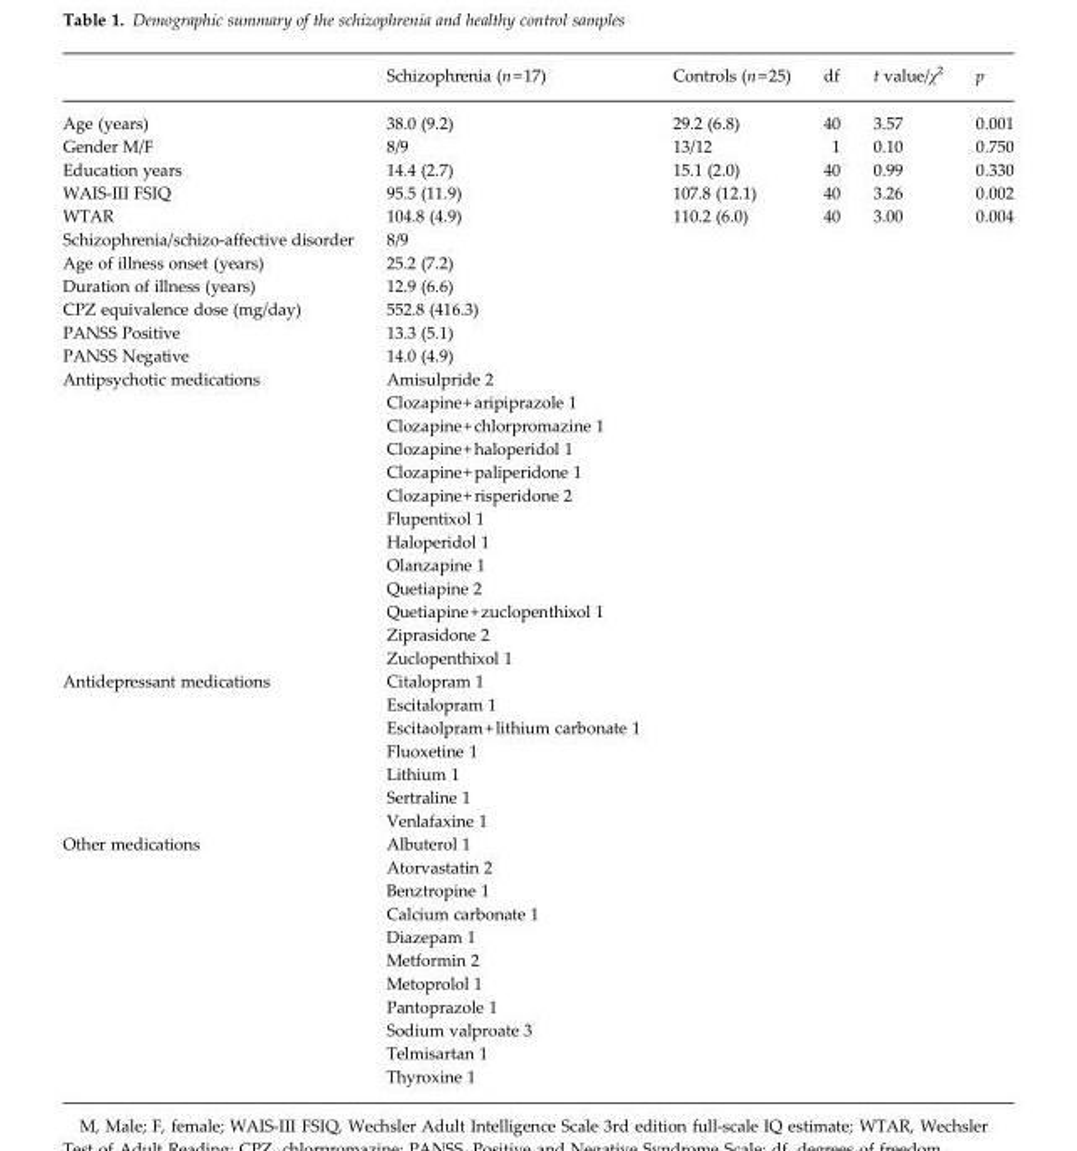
<table><thead><tr><td></td><td>Schizophrenia (n=17)</td><td>Controls (n=25)</td><td>df</td><td>t value/χ<sup>2</sup></td><td>p</td></tr></thead><tbody><tr><td>Age (years)</td><td>38.0 (9.2)</td><td>29.2 (6.8)</td><td>40</td><td>3.57</td><td>0.001</td></tr><tr><td>Gender M/F</td><td>8/9</td><td>13/12</td><td>1</td><td>0.10</td><td>0.750</td></tr><tr><td>Education years</td><td>14.4 (2.7)</td><td>15.1 (2.0)</td><td>40</td><td>0.99</td><td>0.330</td></tr><tr><td>WAIS-III FSIQ</td><td>95.5 (11.9)</td><td>107.8 (12.1)</td><td>40</td><td>3.26</td><td>0.002</td></tr><tr><td>WTAR</td><td>104.8 (4.9)</td><td>110.2 (6.0)</td><td>40</td><td>3.00</td><td>0.004</td></tr><tr><td>Schizophrenia/schizo-affective disorder</td><td>8/9</td><td></td><td></td><td></td><td></td></tr><tr><td>Age of illness onset (years)</td><td>25.2 (7.2)</td><td></td><td></td><td></td><td></td></tr><tr><td>Duration of illness (years)</td><td>12.9 (6.6)</td><td></td><td></td><td></td><td></td></tr><tr><td>CPZ equivalence dose (mg/day)</td><td>552.8 (416.3)</td><td></td><td></td><td></td><td></td></tr><tr><td>PANSS Positive</td><td>13.3 (5.1)</td><td></td><td></td><td></td><td></td></tr><tr><td>PANSS Negative</td><td>14.0 (4.9)</td><td></td><td></td><td></td><td></td></tr><tr><td rowspan="13">Antipsychotic medications</td><td>Amisulpride 2</td><td></td><td></td><td></td><td></td></tr><tr><td>Clozapine+aripiprazole 1</td><td></td><td></td><td></td><td></td></tr><tr><td>Clozapine+chlorpromazine 1</td><td></td><td></td><td></td><td></td></tr><tr><td>Clozapine+haloperidol 1</td><td></td><td></td><td></td><td></td></tr><tr><td>Clozapine+paliperidone 1</td><td></td><td></td><td></td><td></td></tr><tr><td>Clozapine+risperidone 2</td><td></td><td></td><td></td><td></td></tr><tr><td>Flupentixol 1</td><td></td><td></td><td></td><td></td></tr><tr><td>Haloperidol 1</td><td></td><td></td><td></td><td></td></tr><tr><td>Olanzapine 1</td><td></td><td></td><td></td><td></td></tr><tr><td>Quetiapine 2</td><td></td><td></td><td></td><td></td></tr><tr><td>Quetiapine+zuclopenthixol 1</td><td></td><td></td><td></td><td></td></tr><tr><td>Ziprasidone 2</td><td></td><td></td><td></td><td></td></tr><tr><td>Zuclopenthixol 1</td><td></td><td></td><td></td><td></td></tr><tr><td rowspan="7">Antidepressant medications</td><td>Citalopram 1</td><td></td><td></td><td></td><td></td></tr><tr><td>Escitalopram 1</td><td></td><td></td><td></td><td></td></tr><tr><td>Escitaolpram+lithium carbonate 1</td><td></td><td></td><td></td><td></td></tr><tr><td>Fluoxetine 1</td><td></td><td></td><td></td><td></td></tr><tr><td>Lithium 1</td><td></td><td></td><td></td><td></td></tr><tr><td>Sertraline 1</td><td></td><td></td><td></td><td></td></tr><tr><td>Venlafaxine 1</td><td></td><td></td><td></td><td></td></tr><tr><td rowspan="11">Other medications</td><td>Albuterol 1</td><td></td><td></td><td></td><td></td></tr><tr><td>Atorvastatin 2</td><td></td><td></td><td></td><td></td></tr><tr><td>Benztropine 1</td><td></td><td></td><td></td><td></td></tr><tr><td>Calcium carbonate 1</td><td></td><td></td><td></td><td></td></tr><tr><td>Diazepam 1</td><td></td><td></td><td></td><td></td></tr><tr><td>Metformin 2</td><td></td><td></td><td></td><td></td></tr><tr><td>Metoprolol 1</td><td></td><td></td><td></td><td></td></tr><tr><td>Pantoprazole 1</td><td></td><td></td><td></td><td></td></tr><tr><td>Sodium valproate 3</td><td></td><td></td><td></td><td></td></tr><tr><td>Telmisartan 1</td><td></td><td></td><td></td><td></td></tr><tr><td>Thyroxine 1</td><td></td><td></td><td></td><td></td></tr></tbody></table>